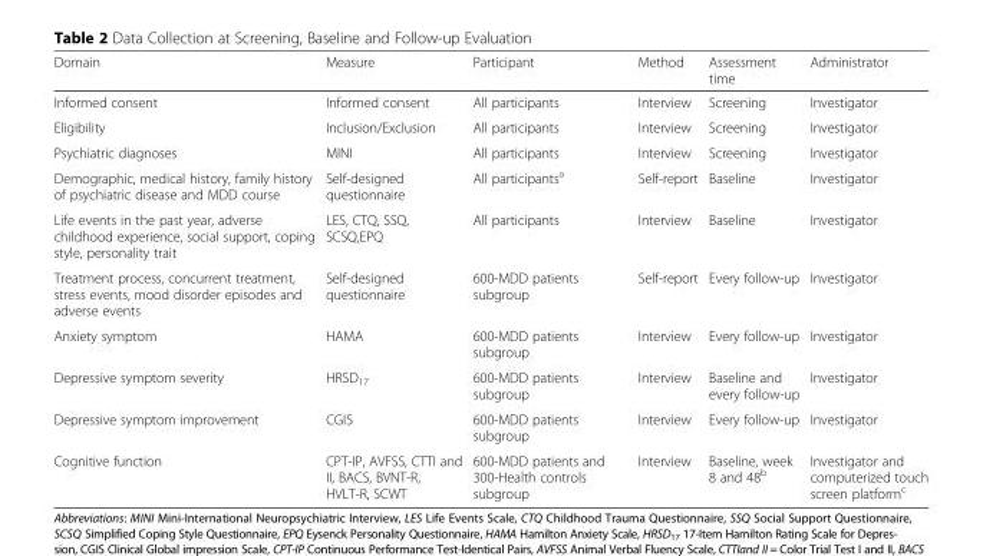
<table><thead><tr><td>Domain</td><td>Measure</td><td>Participant</td><td>Method</td><td>Assessment time</td><td>Administrator</td></tr></thead><tbody><tr><td>Informed consent</td><td>Informed consent</td><td>All participants</td><td>Interview</td><td>Screening</td><td>Investigator</td></tr><tr><td>Eligibility</td><td>Inclusion/Exclusion</td><td>All participants</td><td>Interview</td><td>Screening</td><td>Investigator</td></tr><tr><td>Psychiatric diagnoses</td><td>MINI</td><td>All participants</td><td>Interview</td><td>Screening</td><td>Investigator</td></tr><tr><td>Demographic, medical history, family history of psychiatric disease and MDD course</td><td>Self-designed questionnaire</td><td>All participants<sup>a</sup></td><td>Self-report</td><td>Baseline</td><td>Investigator</td></tr><tr><td>Life events in the past year, adverse childhood experience, social support, coping style, personality trait</td><td>LES, CTQ, SSQ, SCSQ,EPQ</td><td>All participants</td><td>Interview</td><td>Baseline</td><td>Investigator</td></tr><tr><td>Treatment process, concurrent treatment, stress events, mood disorder episodes and adverse events</td><td>Self-designed questionnaire</td><td>600-MDD patients subgroup</td><td>Self-report</td><td>Every follow-up</td><td>Investigator</td></tr><tr><td>Anxiety symptom</td><td>HAMA</td><td>600-MDD patients subgroup</td><td>Interview</td><td>Every follow-up</td><td>Investigator</td></tr><tr><td>Depressive symptom severity</td><td>HRSD<sub>17</sub></td><td>600-MDD patients subgroup</td><td>Interview</td><td>Baseline and every follow-up</td><td>Investigator</td></tr><tr><td>Depressive symptom improvement</td><td>CGIS</td><td>600-MDD patients subgroup</td><td>Interview</td><td>Every follow-up</td><td>Investigator</td></tr><tr><td>Cognitive function</td><td>CPT-IP, AVFSS, CTTI and II, BACS, BVNT-R, HVLT-R, SCWT</td><td>600-MDD patients and 300-Health controls subgroup</td><td>Interview</td><td>Baseline, week 8 and 48<sup>b</sup></td><td>Investigator and computerized touch screen platform<sup>c</sup></td></tr></tbody></table>